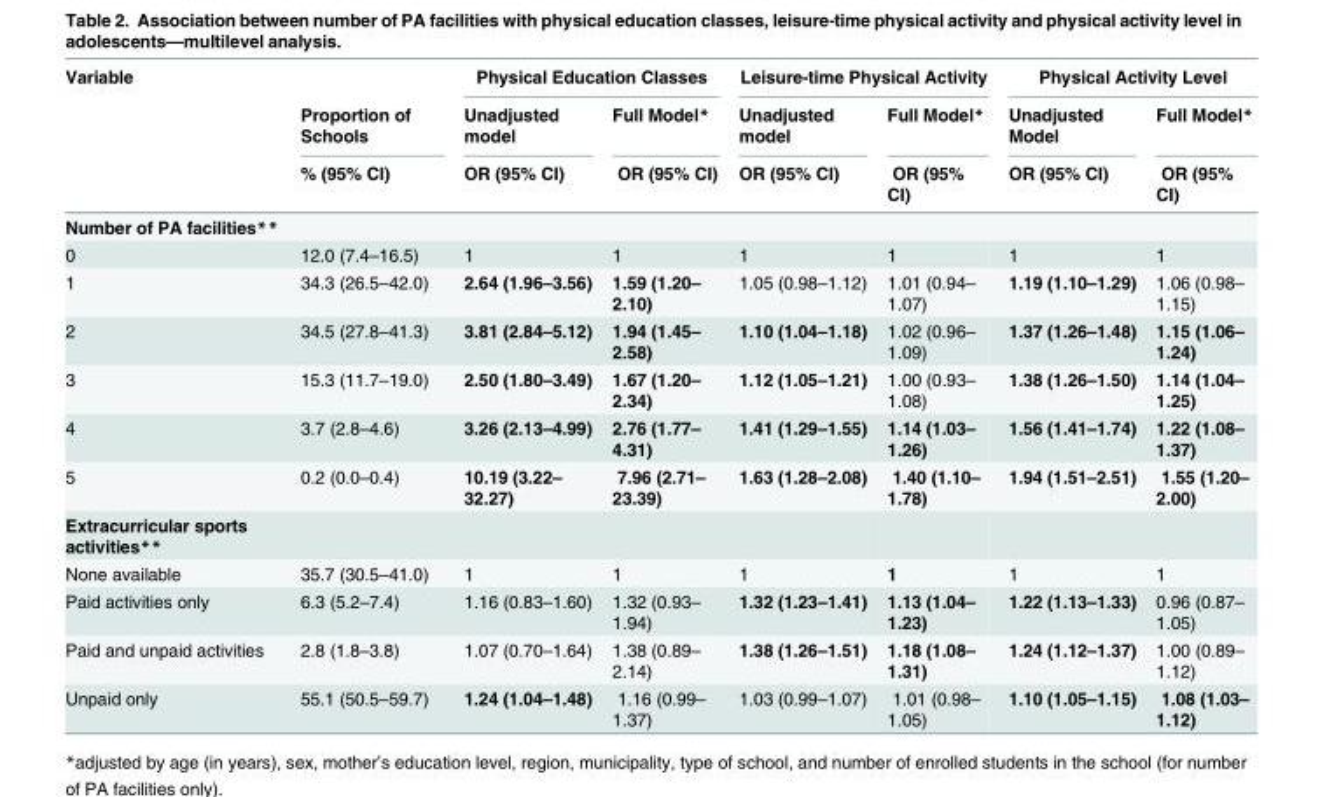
<table><thead><tr><td rowspan="3">Variable</td><td rowspan="3">Proportion of Schools % (95% CI)</td><td colspan="2">Physical Education Classes</td><td colspan="2">Leisure-time Physical Activity</td><td colspan="2">Physical Activity Level</td></tr><tr><td rowspan="2">Unadjusted model OR (95% CI)</td><td rowspan="2">Full Model* OR (95% CI)</td><td rowspan="2">Unadjusted model OR (95% CI)</td><td rowspan="2">Full Model* OR (95% CI)</td><td rowspan="2">Unadjusted Model OR (95% CI)</td><td rowspan="2">Full Model* OR (95% CI)</td></tr><tr></tr></thead><tbody><tr><td colspan="8">Number of PA facilities**</td></tr><tr><td>0</td><td>12.0 (7.4–16.5)</td><td>1</td><td>1</td><td>1</td><td>1</td><td>1</td><td>1</td></tr><tr><td>1</td><td>34.3 (26.5–42.0)</td><td>2.64 (1.96–3.56)</td><td>1.59 (1.20– 2.10)</td><td>1.05 (0.98–1.12)</td><td>1.01 (0.94– 1.07)</td><td>1.19 (1.10–1.29)</td><td>1.06 (0.98– 1.15)</td></tr><tr><td>2</td><td>34.5 (27.8–41.3)</td><td>3.81 (2.84–5.12)</td><td>1.94 (1.45– 2.58)</td><td>1.10 (1.04–1.18)</td><td>1.02 (0.96– 1.09)</td><td>1.37 (1.26–1.48)</td><td>1.15 (1.06– 1.24)</td></tr><tr><td>3</td><td>15.3 (11.7–19.0)</td><td>2.50 (1.80–3.49)</td><td>1.67 (1.20– 2.34)</td><td>1.12 (1.05–1.21)</td><td>1.00 (0.93– 1.08)</td><td>1.38 (1.26–1.50)</td><td>1.14 (1.04– 1.25)</td></tr><tr><td>4</td><td>3.7 (2.8–4.6)</td><td>3.26 (2.13–4.99)</td><td>2.76 (1.77– 4.31)</td><td>1.41 (1.29–1.55)</td><td>1.14 (1.03– 1.26)</td><td>1.56 (1.41–1.74)</td><td>1.22 (1.08– 1.37)</td></tr><tr><td>5</td><td>0.2 (0.0–0.4)</td><td>10.19 (3.22– 32.27)</td><td>7.96 (2.71– 23.39)</td><td>1.63 (1.28–2.08)</td><td>1.40 (1.10– 1.78)</td><td>1.94 (1.51–2.51)</td><td>1.55 (1.20– 2.00)</td></tr><tr><td colspan="8">Extracurricular sports activities**</td></tr><tr><td>None available</td><td>35.7 (30.5–41.0)</td><td>1</td><td>1</td><td>1</td><td>1</td><td>1</td><td>1</td></tr><tr><td>Paid activities only</td><td>6.3 (5.2–7.4)</td><td>1.16 (0.83–1.60)</td><td>1.32 (0.93– 1.94)</td><td>1.32 (1.23–1.41)</td><td>1.13 (1.04– 1.23)</td><td>1.22 (1.13–1.33)</td><td>0.96 (0.87– 1.05)</td></tr><tr><td>Paid and unpaid activities</td><td>2.8 (1.8–3.8)</td><td>1.07 (0.70–1.64)</td><td>1.38 (0.89– 2.14)</td><td>1.38 (1.26–1.51)</td><td>1.18 (1.08– 1.31)</td><td>1.24 (1.12–1.37)</td><td>1.00 (0.89– 1.12)</td></tr><tr><td>Unpaid only</td><td>55.1 (50.5–59.7)</td><td>1.24 (1.04–1.48)</td><td>1.16 (0.99– 1.37)</td><td>1.03 (0.99–1.07)</td><td>1.01 (0.98– 1.05)</td><td>1.10 (1.05–1.15)</td><td>1.08 (1.03– 1.12)</td></tr></tbody></table>